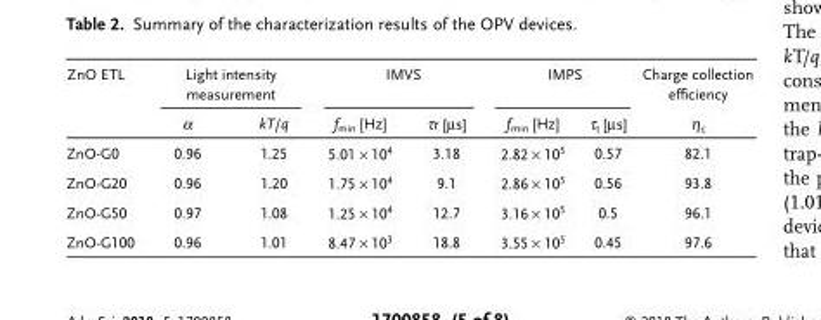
<table><thead><tr><td rowspan="2">ZnO ETL</td><td colspan="2">Light intensity measurement</td><td colspan="2">IMVS</td><td colspan="2">IMPS</td><td rowspan="2">Charge collection efficiency η<sub>c</sub></td></tr><tr><td>α</td><td>kT/q</td><td>f<sub>min</sub> [Hz]</td><td>τ<sub>r</sub> [µs]</td><td>f<sub>min</sub> [Hz]</td><td>τ<sub>t</sub> [µs]</td></tr></thead><tbody><tr><td>ZnO-G0</td><td>0.96</td><td>1.25</td><td>5.01 × 10<sup>4</sup></td><td>3.18</td><td>2.82 × 10<sup>5</sup></td><td>0.57</td><td>82.1</td></tr><tr><td>ZnO-G20</td><td>0.96</td><td>1.20</td><td>1.75 × 10<sup>4</sup></td><td>9.1</td><td>2.86 × 10<sup>5</sup></td><td>0.56</td><td>93.8</td></tr><tr><td>ZnO-G50</td><td>0.97</td><td>1.08</td><td>1.25 × 10<sup>4</sup></td><td>12.7</td><td>3.16 × 10<sup>5</sup></td><td>0.5</td><td>96.1</td></tr><tr><td>ZnO-G100</td><td>0.96</td><td>1.01</td><td>8.47 × 10<sup>3</sup></td><td>18.8</td><td>3.55 × 10<sup>5</sup></td><td>0.45</td><td>97.6</td></tr></tbody></table>